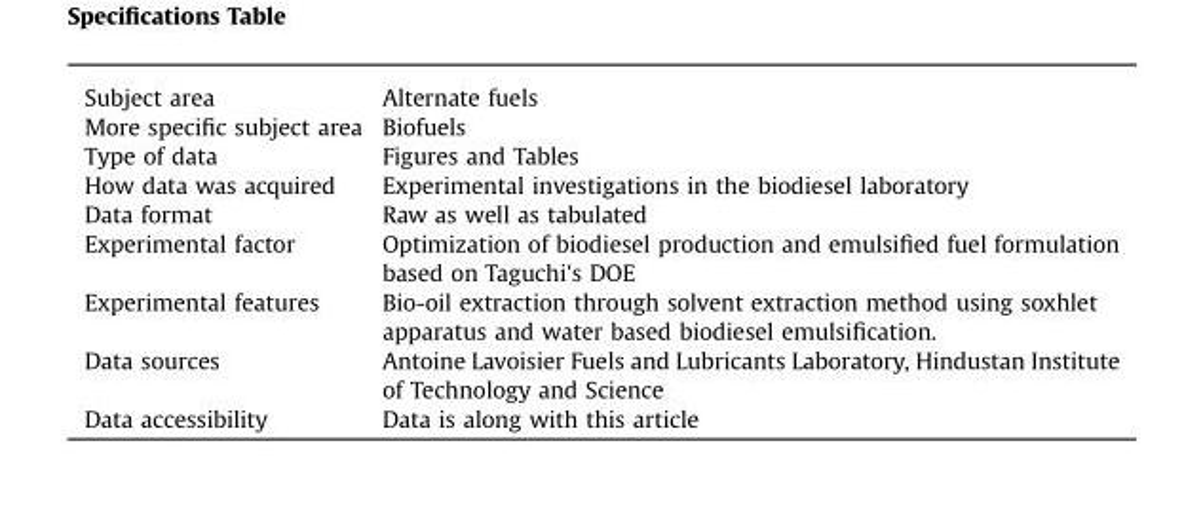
<table><tbody><tr><td>Subject area</td><td>Alternate fuels</td></tr><tr><td>More specific subject area</td><td>Biofuels</td></tr><tr><td>Type of data</td><td>Figures and Tables</td></tr><tr><td>How data was acquired</td><td>Experimental investigations in the biodiesel laboratory</td></tr><tr><td>Data format</td><td>Raw as well as tabulated</td></tr><tr><td>Experimental factor</td><td>Optimization of biodiesel production and emulsified fuel formulation based on Taguchi&#x27;s DOE</td></tr><tr><td>Experimental features</td><td>Bio-oil extraction through solvent extraction method using soxhlet apparatus and water based biodiesel emulsification.</td></tr><tr><td>Data sources</td><td>Antoine Lavoisier Fuels and Lubricants Laboratory, Hindustan Institute of Technology and Science</td></tr><tr><td>Data accessibility</td><td>Data is along with this article</td></tr></tbody></table>